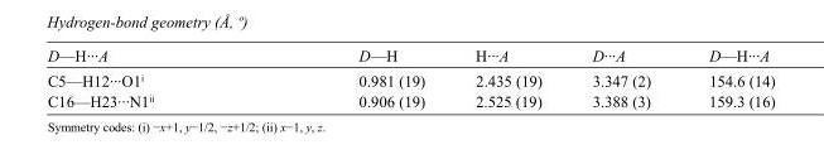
<table><tbody><tr><td>D—H···A</td><td>D—H</td><td>H···A</td><td>D···A</td><td>D—H···A</td></tr><tr><td>C5—H12···O1<sup>i</sup></td><td>0.981 (19)</td><td>2.435 (19)</td><td>3.347 (2)</td><td>154.6 (14)</td></tr><tr><td>C16—H23···N1<sup>ii</sup></td><td>0.906 (19)</td><td>2.525 (19)</td><td>3.388 (3)</td><td>159.3 (16)</td></tr></tbody></table>